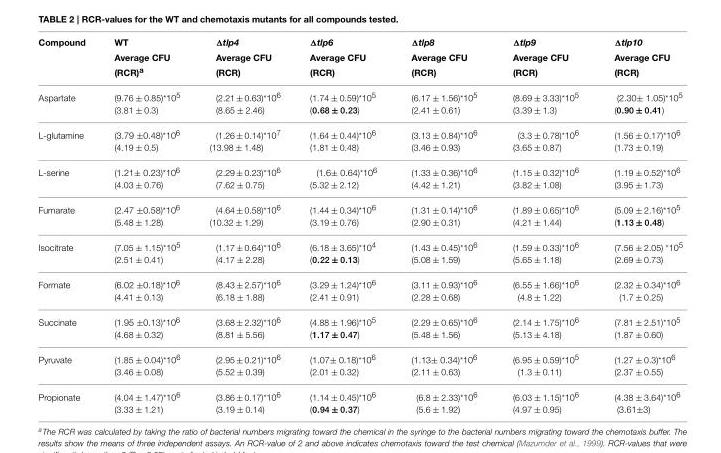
<table><thead><tr><td rowspan="3">Compound</td><td rowspan="3">WT Average CFU (RCR)<sup>a</sup></td><td rowspan="3">Δtlp4 Average CFU (RCR)</td><td rowspan="3">Δtlp6 Average CFU (RCR)</td><td rowspan="3">Δtlp8 Average CFU (RCR)</td><td rowspan="3">Δtlp9 Average CFU (RCR)</td><td rowspan="3">Δtlp10 Average CFU (RCR)</td></tr><tr></tr><tr></tr></thead><tbody><tr><td>Aspartate</td><td>(9.76 ± 0.85)*10<sup>5</sup> (3.81 ± 0.3)</td><td>(2.21 ± 0.63)*10<sup>6</sup> (8.65 ± 2.46)</td><td>(1.74 ± 0.59)*10<sup>5</sup> (0.68 ± 0.23)</td><td>(6.17 ± 1.56)*10<sup>5</sup> (2.41 ± 0.61)</td><td>(8.69 ± 3.33)*10<sup>5</sup> (3.39 ± 1.3)</td><td>(2.30± 1.05)*10<sup>5</sup> (0.90 ± 0.41)</td></tr><tr><td>L-glutamine</td><td>(3.79 ±0.48)*10<sup>6</sup> (4.19 ± 0.5)</td><td>(1.26 ± 0.14)*10<sup>7</sup> (13.98 ± 1.48)</td><td>(1.64 ± 0.44)*10<sup>6</sup> (1.81 ± 0.48)</td><td>(3.13 ± 0.84)*10<sup>6</sup> (3.46 ± 0.93)</td><td>(3.3 ± 0.78)*10<sup>6</sup> (3.65 ± 0.87)</td><td>(1.56 ± 0.17)*10<sup>6</sup> (1.73 ± 0.19)</td></tr><tr><td>L-serine</td><td>(1.21± 0.23)*10<sup>6</sup> (4.03 ± 0.76)</td><td>(2.29 ± 0.23)*10<sup>6</sup> (7.62 ± 0.75)</td><td>(1.6± 0.64)*10<sup>6</sup> (5.32 ± 2.12)</td><td>(1.33 ± 0.36)*10<sup>6</sup> (4.42 ± 1.21)</td><td>(1.15 ± 0.32)*10<sup>6</sup> (3.82 ± 1.08)</td><td>(1.19 ± 0.52)*10<sup>6</sup> (3.95 ± 1.73)</td></tr><tr><td>Fumarate</td><td>(2.47 ±0.58)*10<sup>6</sup> (5.48 ± 1.28)</td><td>(4.64 ± 0.58)*10<sup>6</sup> (10.32 ± 1.29)</td><td>(1.44 ± 0.34)*10<sup>6</sup> (3.19 ± 0.76)</td><td>(1.31 ± 0.14)*10<sup>6</sup> (2.90 ± 0.31)</td><td>(1.89 ± 0.65)*10<sup>6</sup> (4.21 ± 1.44)</td><td>(5.09 ± 2.16)*10<sup>5</sup> (1.13 ± 0.48)</td></tr><tr><td>Isocitrate</td><td>(7.05 ± 1.15)*10<sup>5</sup> (2.51 ± 0.41)</td><td>(1.17 ± 0.64)*10<sup>6</sup> (4.17 ± 2.28)</td><td>(6.18 ± 3.65)*10<sup>4</sup> (0.22 ± 0.13)</td><td>(1.43 ± 0.45)*10<sup>6</sup> (5.08 ± 1.59)</td><td>(1.59 ± 0.33)*10<sup>6</sup> (5.65 ± 1.18)</td><td>(7.56 ± 2.05) *10<sup>5</sup> (2.69 ± 0.73)</td></tr><tr><td>Formate</td><td>(6.02 ±0.18)*10<sup>6</sup> (4.41 ± 0.13)</td><td>(8.43 ± 2.57)*10<sup>6</sup> (6.18 ± 1.88)</td><td>(3.29 ± 1.24)*10<sup>6</sup> (2.41 ± 0.91)</td><td>(3.11 ± 0.93)*10<sup>6</sup> (2.28 ± 0.68)</td><td>(6.55 ± 1.66)*10<sup>6</sup> (4.8 ± 1.22)</td><td>(2.32 ± 0.34)*10<sup>6</sup> (1.7 ± 0.25)</td></tr><tr><td>Succinate</td><td>(1.95 ±0.13)*10<sup>6</sup> (4.68 ± 0.32)</td><td>(3.68 ± 2.32)*10<sup>6</sup> (8.81 ± 5.56)</td><td>(4.88 ± 1.96)*10<sup>5</sup> (1.17 ± 0.47)</td><td>(2.29 ± 0.65)*10<sup>6</sup> (5.48 ± 1.56)</td><td>(2.14 ± 1.75)*10<sup>6</sup> (5.13 ± 4.18)</td><td>(7.81 ± 2.51)*10<sup>5</sup> (1.87 ± 0.60)</td></tr><tr><td>Pyruvate</td><td>(1.85 ± 0.04)*10<sup>6</sup> (3.46 ± 0.08)</td><td>(2.95 ± 0.21)*10<sup>6</sup> (5.52 ± 0.39)</td><td>(1.07± 0.18)*10<sup>6</sup> (2.01 ± 0.32)</td><td>(1.13± 0.34)*10<sup>6</sup> (2.11 ± 0.63)</td><td>(6.95 ± 0.59)*10<sup>5</sup> (1.3 ± 0.11)</td><td>(1.27 ± 0.3)*10<sup>6</sup> (2.37 ± 0.55)</td></tr><tr><td>Propionate</td><td>(4.04 ± 1.47)*10<sup>6</sup> (3.33 ± 1.21)</td><td>(3.86 ± 0.17)*10<sup>6</sup> (3.19 ± 0.14)</td><td>(1.14 ± 0.45)*10<sup>6</sup> (0.94 ± 0.37)</td><td>(6.8 ± 2.33)*10<sup>6</sup> (5.6 ± 1.92)</td><td>(6.03 ± 1.15)*10<sup>6</sup> (4.97 ± 0.95)</td><td>(4.38 ± 3.64)*10<sup>6</sup> (3.61±3)</td></tr></tbody></table>